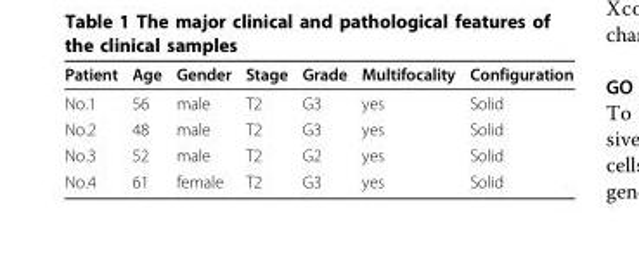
<table><thead><tr><td>Patient</td><td>Age</td><td>Gender</td><td>Stage</td><td>Grade</td><td>Multifocality</td><td>Configuration</td></tr></thead><tbody><tr><td>No.1</td><td>56</td><td>male</td><td>T2</td><td>G3</td><td>yes</td><td>Solid</td></tr><tr><td>No.2</td><td>48</td><td>male</td><td>T2</td><td>G3</td><td>yes</td><td>Solid</td></tr><tr><td>No.3</td><td>52</td><td>male</td><td>T2</td><td>G2</td><td>yes</td><td>Solid</td></tr><tr><td>No.4</td><td>61</td><td>female</td><td>T2</td><td>G3</td><td>yes</td><td>Solid</td></tr></tbody></table>